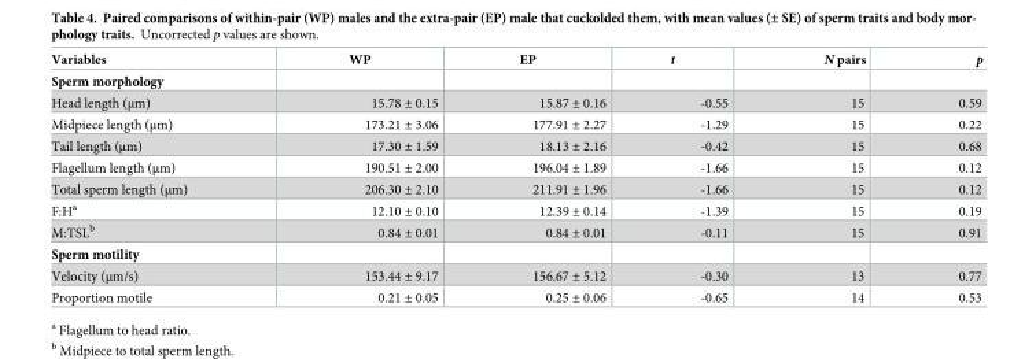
<table><thead><tr><td>Variables</td><td>WP</td><td>EP</td><td>t</td><td>N pairs</td><td>p</td></tr></thead><tbody><tr><td colspan="6">Sperm morphology</td></tr><tr><td>Head length (μm)</td><td>15.78 ± 0.15</td><td>15.87 ± 0.16</td><td>-0.55</td><td>15</td><td>0.59</td></tr><tr><td>Midpiece length (μm)</td><td>173.21 ± 3.06</td><td>177.91 ± 2.27</td><td>-1.29</td><td>15</td><td>0.22</td></tr><tr><td>Tail length (μm)</td><td>17.30 ± 1.59</td><td>18.13 ± 2.16</td><td>-0.42</td><td>15</td><td>0.68</td></tr><tr><td>Flagellum length (μm)</td><td>190.51 ± 2.00</td><td>196.04 ± 1.89</td><td>-1.66</td><td>15</td><td>0.12</td></tr><tr><td>Total sperm length (μm)</td><td>206.30 ± 2.10</td><td>211.91 ± 1.96</td><td>-1.66</td><td>15</td><td>0.12</td></tr><tr><td>F:H<sup>a</sup></td><td>12.10 ± 0.10</td><td>12.39 ± 0.14</td><td>-1.39</td><td>15</td><td>0.19</td></tr><tr><td>M:TSL<sup>b</sup></td><td>0.84 ± 0.01</td><td>0.84 ± 0.01</td><td>-0.11</td><td>15</td><td>0.91</td></tr><tr><td colspan="6">Sperm motility</td></tr><tr><td>Velocity (μm/s)</td><td>153.44 ± 9.17</td><td>156.67 ± 5.12</td><td>-0.30</td><td>13</td><td>0.77</td></tr><tr><td>Proportion motile</td><td>0.21 ± 0.05</td><td>0.25 ± 0.06</td><td>-0.65</td><td>14</td><td>0.53</td></tr></tbody></table>